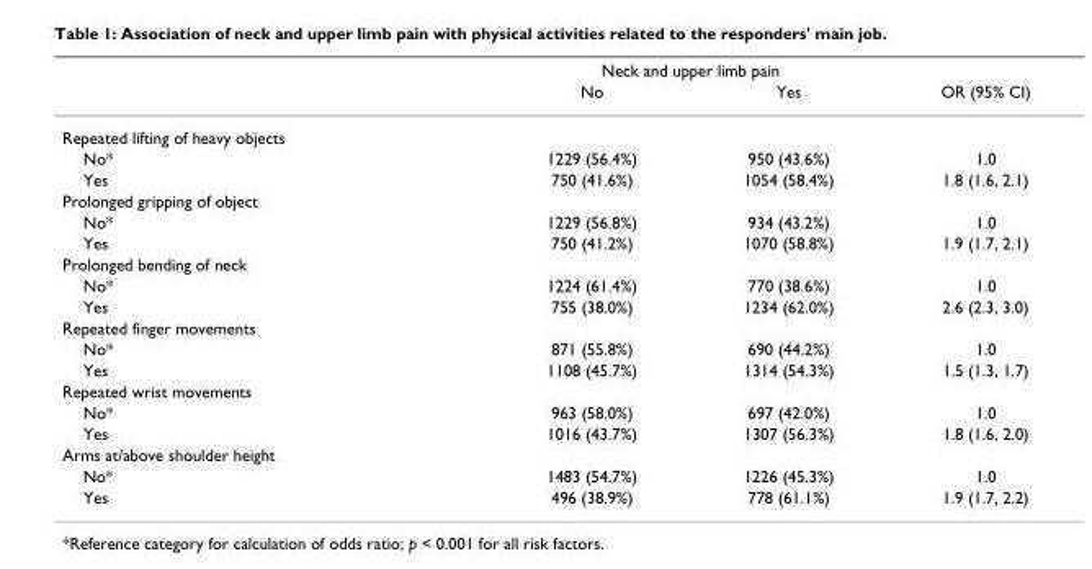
<table><thead><tr><td rowspan="2"></td><td colspan="2">Neck and upper limb pain</td><td rowspan="2">OR (95% CI)</td></tr><tr><td>No</td><td>Yes</td></tr></thead><tbody><tr><td colspan="4">Repeated lifting of heavy objects</td></tr><tr><td>No*</td><td>1229 (56.4%)</td><td>950 (43.6%)</td><td>1.0</td></tr><tr><td>Yes</td><td>750 (41.6%)</td><td>1054 (58.4%)</td><td>1.8 (1.6, 2.1)</td></tr><tr><td colspan="4">Prolonged gripping of object</td></tr><tr><td>No*</td><td>1229 (56.8%)</td><td>934 (43.2%)</td><td>1.0</td></tr><tr><td>Yes</td><td>750 (41.2%)</td><td>1070 (58.8%)</td><td>1.9 (1.7, 2.1)</td></tr><tr><td colspan="4">Prolonged bending of neck</td></tr><tr><td>No*</td><td>1224 (61.4%)</td><td>770 (38.6%)</td><td>1.0</td></tr><tr><td>Yes</td><td>755 (38.0%)</td><td>1234 (62.0%)</td><td>2.6 (2.3, 3.0)</td></tr><tr><td colspan="4">Repeated finger movements</td></tr><tr><td>No*</td><td>871 (55.8%)</td><td>690 (44.2%)</td><td>1.0</td></tr><tr><td>Yes</td><td>1108 (45.7%)</td><td>1314 (54.3%)</td><td>1.5 (1.3, 1.7)</td></tr><tr><td colspan="4">Repeated wrist movements</td></tr><tr><td>No*</td><td>963 (58.0%)</td><td>697 (42.0%)</td><td>1.0</td></tr><tr><td>Yes</td><td>1016 (43.7%)</td><td>1307 (56.3%)</td><td>1.8 (1.6, 2.0)</td></tr><tr><td colspan="4">Arms at/above shoulder height</td></tr><tr><td>No*</td><td>1483 (54.7%)</td><td>1226 (45.3%)</td><td>1.0</td></tr><tr><td>Yes</td><td>496 (38.9%)</td><td>778 (61.1%)</td><td>1.9 (1.7, 2.2)</td></tr></tbody></table>